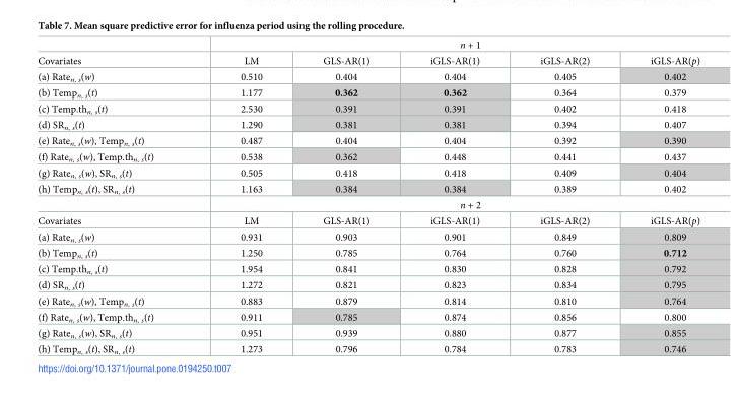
<table><thead><tr><td rowspan="2">Covariates</td><td colspan="5">n + 1</td></tr><tr><td>LM</td><td>GLS-AR(1)</td><td>iGLS-AR(1)</td><td>iGLS-AR(2)</td><td>iGLS-AR(p)</td></tr></thead><tbody><tr><td>(a) Rate<sub>n, s</sub>(w)</td><td>0.510</td><td>0.404</td><td>0.404</td><td>0.405</td><td>0.402</td></tr><tr><td>(b) Temp<sub>n, s</sub>(t)</td><td>1.177</td><td>0.362</td><td>0.362</td><td>0.364</td><td>0.379</td></tr><tr><td>(c) Temp.th<sub>n, s</sub>(t)</td><td>2.530</td><td>0.391</td><td>0.391</td><td>0.402</td><td>0.418</td></tr><tr><td>(d) SR<sub>n, s</sub>(t)</td><td>1.290</td><td>0.381</td><td>0.381</td><td>0.394</td><td>0.407</td></tr><tr><td>(e) Rate<sub>n, s</sub>(w), Temp<sub>n, s</sub>(t)</td><td>0.487</td><td>0.404</td><td>0.404</td><td>0.392</td><td>0.390</td></tr><tr><td>(f) Rate<sub>n, s</sub>(w), Temp.th<sub>n, s</sub>(t)</td><td>0.538</td><td>0.362</td><td>0.448</td><td>0.441</td><td>0.437</td></tr><tr><td>(g) Rate<sub>n, s</sub>(w), SR<sub>n, s</sub>(t)</td><td>0.505</td><td>0.418</td><td>0.418</td><td>0.409</td><td>0.404</td></tr><tr><td rowspan="2">(h) Temp<sub>n, s</sub>(t), SR<sub>n, s</sub>(t)</td><td>1.163</td><td>0.384</td><td>0.384</td><td>0.389</td><td>0.402</td></tr><tr><td colspan="5">n + 2</td></tr><tr><td>Covariates</td><td>LM</td><td>GLS-AR(1)</td><td>iGLS-AR(1)</td><td>iGLS-AR(2)</td><td>iGLS-AR(p)</td></tr><tr><td>(a) Rate<sub>n, s</sub>(w)</td><td>0.931</td><td>0.903</td><td>0.901</td><td>0.849</td><td>0.809</td></tr><tr><td>(b) Temp<sub>n, s</sub>(t)</td><td>1.250</td><td>0.785</td><td>0.764</td><td>0.760</td><td>0.712</td></tr><tr><td>(c) Temp.th<sub>n, s</sub>(t)</td><td>1.954</td><td>0.841</td><td>0.830</td><td>0.828</td><td>0.792</td></tr><tr><td>(d) SR<sub>n, s</sub>(t)</td><td>1.272</td><td>0.821</td><td>0.823</td><td>0.834</td><td>0.795</td></tr><tr><td>(e) Rate<sub>n, s</sub>(w), Temp<sub>n, s</sub>(t)</td><td>0.883</td><td>0.879</td><td>0.814</td><td>0.810</td><td>0.764</td></tr><tr><td>(f) Rate<sub>n, s</sub>(w), Temp.th<sub>n, s</sub>(t)</td><td>0.911</td><td>0.785</td><td>0.874</td><td>0.856</td><td>0.800</td></tr><tr><td>(g) Rate<sub>n, s</sub>(w), SR<sub>n, s</sub>(t)</td><td>0.951</td><td>0.939</td><td>0.880</td><td>0.877</td><td>0.855</td></tr><tr><td>(h) Temp<sub>n, s</sub>(t), SR<sub>n, s</sub>(t)</td><td>1.273</td><td>0.796</td><td>0.784</td><td>0.783</td><td>0.746</td></tr></tbody></table>